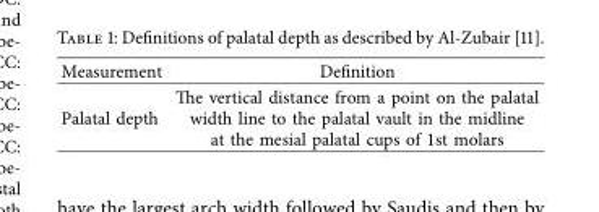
<table><thead><tr><td>Measurement</td><td>Defnition</td></tr></thead><tbody><tr><td>Palatal depth</td><td>Te vertical distance from a point on the palatal width line to the palatal vault in the midline at the mesial palatal cups of 1st molars</td></tr></tbody></table>